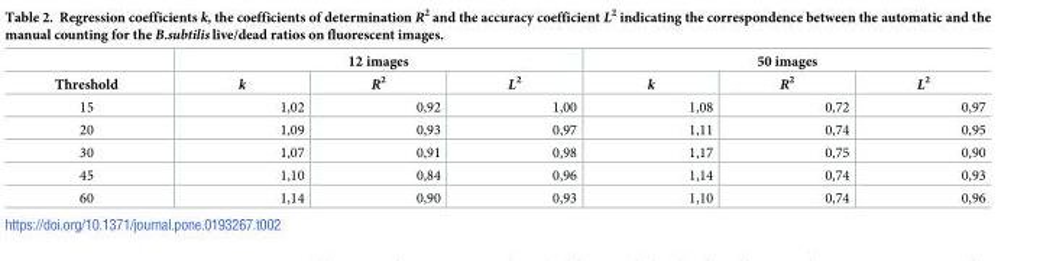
<table><thead><tr><td rowspan="2">Threshold</td><td colspan="3">12 images</td><td colspan="3">50 images</td></tr><tr><td>k</td><td>R<sup>2</sup></td><td>L<sup>2</sup></td><td>k</td><td>R<sup>2</sup></td><td>L<sup>2</sup></td></tr></thead><tbody><tr><td>15</td><td>1,02</td><td>0,92</td><td>1,00</td><td>1,08</td><td>0,72</td><td>0,97</td></tr><tr><td>20</td><td>1,09</td><td>0,93</td><td>0,97</td><td>1,11</td><td>0,74</td><td>0,95</td></tr><tr><td>30</td><td>1,07</td><td>0,91</td><td>0,98</td><td>1,17</td><td>0,75</td><td>0,90</td></tr><tr><td>45</td><td>1,10</td><td>0,84</td><td>0,96</td><td>1,14</td><td>0,74</td><td>0,93</td></tr><tr><td>60</td><td>1,14</td><td>0,90</td><td>0,93</td><td>1,10</td><td>0,74</td><td>0,96</td></tr></tbody></table>